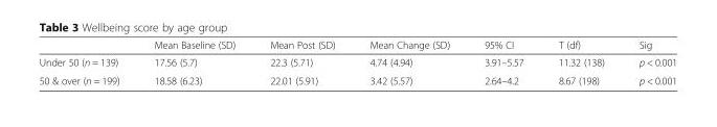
<table><thead><tr><td></td><td>Mean Baseline (SD)</td><td>Mean Post (SD)</td><td>Mean Change (SD)</td><td>95% CI</td><td>T (df)</td><td>Sig</td></tr></thead><tbody><tr><td>Under 50 (n = 139)</td><td>17.56 (5.7)</td><td>22.3 (5.71)</td><td>4.74 (4.94)</td><td>3.91–5.57</td><td>11.32 (138)</td><td>p &lt; 0.001</td></tr><tr><td>50 &amp; over (n = 199)</td><td>18.58 (6.23)</td><td>22.01 (5.91)</td><td>3.42 (5.57)</td><td>2.64–4.2</td><td>8.67 (198)</td><td>p &lt; 0.001</td></tr></tbody></table>